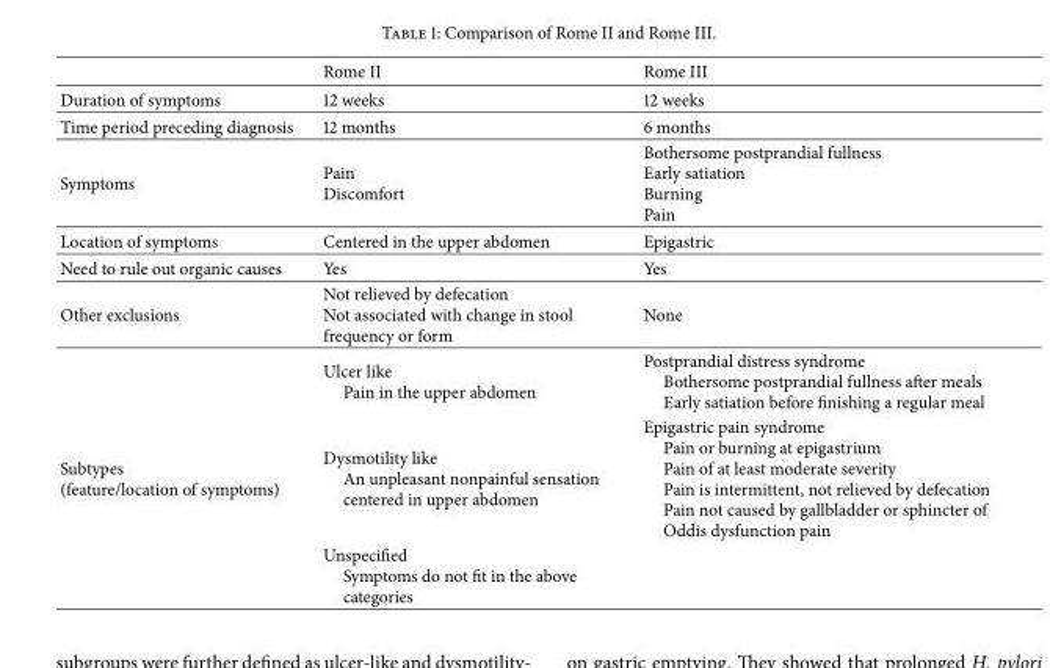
<table><thead><tr><td></td><td>Rome II</td><td>Rome III</td></tr></thead><tbody><tr><td>Duration of symptoms</td><td>12 weeks</td><td>12 weeks</td></tr><tr><td>Time period preceding diagnosis</td><td>12 months</td><td>6 months</td></tr><tr><td>Symptoms</td><td>Pain Discomfort</td><td>Bothersome postprandial fullness Early satiation Burning Pain</td></tr><tr><td>Location of symptoms</td><td>Centered in the upper abdomen</td><td>Epigastric</td></tr><tr><td>Need to rule out organic causes</td><td>Yes</td><td>Yes</td></tr><tr><td rowspan="2">Other exclusions</td><td>Not relieved by defecation Not associated with change in stool frequency or form</td><td>None</td></tr><tr><td>Ulcer like Pain in the upper abdomen</td><td>Postprandial distress syndrome Bothersome postprandial fullness after meals Early satiation before finishing a regular meal</td></tr><tr><td rowspan="2">Subtypes (feature/location of symptoms)</td><td>Dysmotility like An unpleasant nonpainful sensation centered in upper abdomen</td><td>Epigastric pain syndrome Pain or burning at epigastrium Pain of at least moderate severity Pain is intermittent, not relieved by defecation Pain not caused by gallbladder or sphincter of Oddis dysfunction pain</td></tr><tr><td>Unspecified Symptoms do not fit in the above categories</td><td></td></tr></tbody></table>